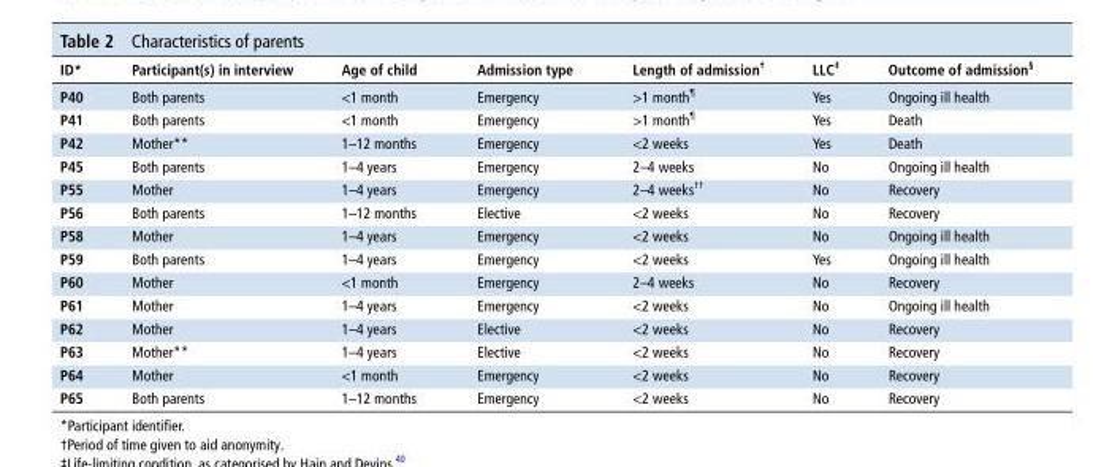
<table><thead><tr><td>ID*</td><td>Participant(s) in interview</td><td>Age of child</td><td>Admission type</td><td>Length of admission<sup>†</sup></td><td>LLc<sup>‡</sup></td><td>Outcome of admission<sup>§</sup></td></tr></thead><tbody><tr><td>P40</td><td>Both parents</td><td>&lt;1 month</td><td>Emergency</td><td>&gt;1 month<sup>¶</sup></td><td>Yes</td><td>Ongoing ill health</td></tr><tr><td>P41</td><td>Both parents</td><td>&lt;1 month</td><td>Emergency</td><td>&gt;1 month<sup>¶</sup></td><td>Yes</td><td>Death</td></tr><tr><td>P42</td><td>Mother**</td><td>1–12 months</td><td>Emergency</td><td>&lt;2 weeks</td><td>Yes</td><td>Death</td></tr><tr><td>P45</td><td>Both parents</td><td>1–4 years</td><td>Emergency</td><td>2–4 weeks</td><td>No</td><td>Ongoing ill health</td></tr><tr><td>P55</td><td>Mother</td><td>1–4 years</td><td>Emergency</td><td>2–4 weeks††</td><td>No</td><td>Recovery</td></tr><tr><td>P56</td><td>Both parents</td><td>1–12 months</td><td>Elective</td><td>&lt;2 weeks</td><td>No</td><td>Recovery</td></tr><tr><td>P58</td><td>Mother</td><td>1–4 years</td><td>Emergency</td><td>&lt;2 weeks</td><td>No</td><td>Ongoing ill health</td></tr><tr><td>P59</td><td>Both parents</td><td>1–4 years</td><td>Emergency</td><td>&lt;2 weeks</td><td>Yes</td><td>Ongoing ill health</td></tr><tr><td>P60</td><td>Mother</td><td>&lt;1 month</td><td>Emergency</td><td>2–4 weeks</td><td>No</td><td>Recovery</td></tr><tr><td>P61</td><td>Mother</td><td>1–4 years</td><td>Emergency</td><td>&lt;2 weeks</td><td>No</td><td>Ongoing ill health</td></tr><tr><td>P62</td><td>Mother</td><td>1–4 years</td><td>Elective</td><td>&lt;2 weeks</td><td>No</td><td>Recovery</td></tr><tr><td>P63</td><td>Mother**</td><td>1–4 years</td><td>Elective</td><td>&lt;2 weeks</td><td>No</td><td>Recovery</td></tr><tr><td>P64</td><td>Mother</td><td>&lt;1 month</td><td>Emergency</td><td>&lt;2 weeks</td><td>No</td><td>Recovery</td></tr><tr><td>P65</td><td>Both parents</td><td>1–12 months</td><td>Emergency</td><td>&lt;2 weeks</td><td>No</td><td>Recovery</td></tr></tbody></table>